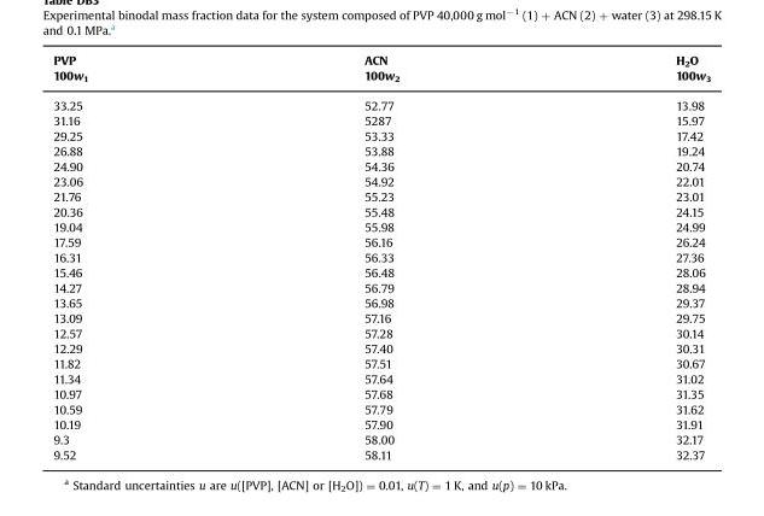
<table><thead><tr><td rowspan="2">PVP 100w<sub>1</sub></td><td rowspan="2">ACN 100w<sub>2</sub></td><td rowspan="2">H<sub>2</sub>O 100w<sub>3</sub></td></tr><tr></tr></thead><tbody><tr><td>33.25</td><td>52.77</td><td>13.98</td></tr><tr><td>31.16</td><td>5287</td><td>15.97</td></tr><tr><td>29.25</td><td>53.33</td><td>17.42</td></tr><tr><td>26.88</td><td>53.88</td><td>19.24</td></tr><tr><td>24.90</td><td>54.36</td><td>20.74</td></tr><tr><td>23.06</td><td>54.92</td><td>22.01</td></tr><tr><td>21.76</td><td>55.23</td><td>23.01</td></tr><tr><td>20.36</td><td>55.48</td><td>24.15</td></tr><tr><td>19.04</td><td>55.98</td><td>24.99</td></tr><tr><td>17.59</td><td>56.16</td><td>26.24</td></tr><tr><td>16.31</td><td>56.33</td><td>27.36</td></tr><tr><td>15.46</td><td>56.48</td><td>28.06</td></tr><tr><td>14.27</td><td>56.79</td><td>28.94</td></tr><tr><td>13.65</td><td>56.98</td><td>29.37</td></tr><tr><td>13.09</td><td>57.16</td><td>29.75</td></tr><tr><td>12.57</td><td>57.28</td><td>30.14</td></tr><tr><td>12.29</td><td>57.40</td><td>30.31</td></tr><tr><td>11.82</td><td>57.51</td><td>30.67</td></tr><tr><td>11.34</td><td>57.64</td><td>31.02</td></tr><tr><td>10.97</td><td>57.68</td><td>31.35</td></tr><tr><td>10.59</td><td>57.79</td><td>31.62</td></tr><tr><td>10.19</td><td>57.90</td><td>31.91</td></tr><tr><td>9.3</td><td>58.00</td><td>32.17</td></tr><tr><td>9.52</td><td>58.11</td><td>32.37</td></tr></tbody></table>